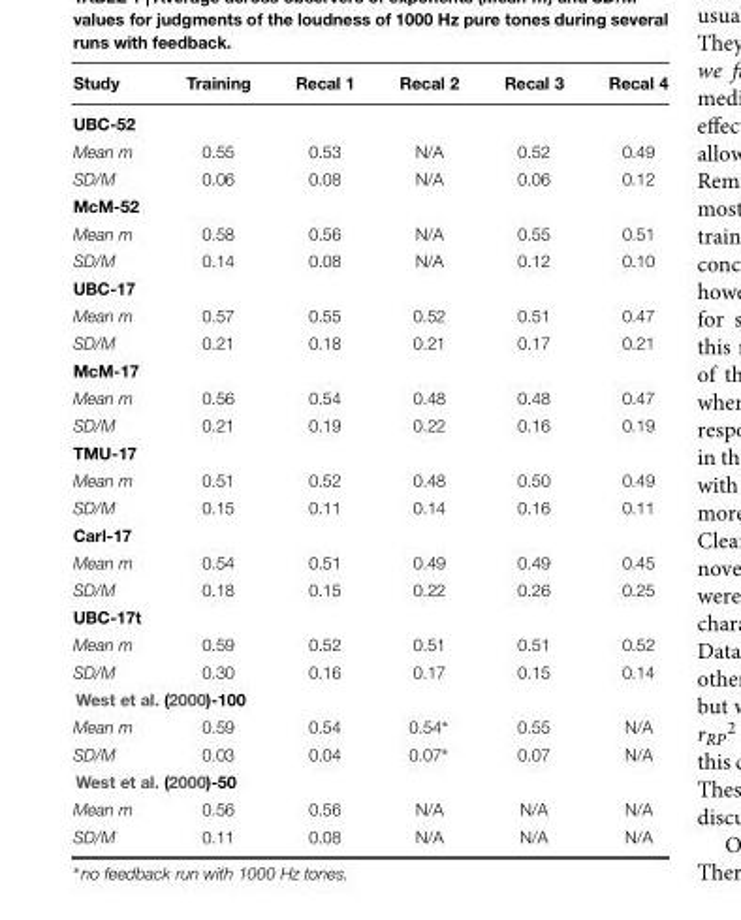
<table><thead><tr><td>Study</td><td>Training</td><td>Recal 1</td><td>Recal 2</td><td>Recal 3</td><td>Recal 4</td></tr></thead><tbody><tr><td colspan="6">UBC-52</td></tr><tr><td>Mean m</td><td>0.55</td><td>0.53</td><td>N/A</td><td>0.52</td><td>0.49</td></tr><tr><td>SD/M</td><td>0.06</td><td>0.08</td><td>N/A</td><td>0.06</td><td>0.12</td></tr><tr><td colspan="6">McM-52</td></tr><tr><td>Mean m</td><td>0.58</td><td>0.56</td><td>N/A</td><td>0.55</td><td>0.51</td></tr><tr><td>SD/M</td><td>0.14</td><td>0.08</td><td>N/A</td><td>0.12</td><td>0.10</td></tr><tr><td colspan="6">UBC-17</td></tr><tr><td>Mean m</td><td>0.57</td><td>0.55</td><td>0.52</td><td>0.51</td><td>0.47</td></tr><tr><td>SD/M</td><td>0.21</td><td>0.18</td><td>0.21</td><td>0.17</td><td>0.21</td></tr><tr><td colspan="6">McM-17</td></tr><tr><td>Mean m</td><td>0.56</td><td>0.54</td><td>0.48</td><td>0.48</td><td>0.47</td></tr><tr><td>SD/M</td><td>0.21</td><td>0.19</td><td>0.22</td><td>0.16</td><td>0.19</td></tr><tr><td colspan="6">TMU-17</td></tr><tr><td>Mean m</td><td>0.51</td><td>0.52</td><td>0.48</td><td>0.50</td><td>0.49</td></tr><tr><td>SD/M</td><td>0.15</td><td>0.11</td><td>0.14</td><td>0.16</td><td>0.11</td></tr><tr><td colspan="6">Carl-17</td></tr><tr><td>Mean m</td><td>0.54</td><td>0.51</td><td>0.49</td><td>0.49</td><td>0.45</td></tr><tr><td>SD/M</td><td>0.18</td><td>0.15</td><td>0.22</td><td>0.26</td><td>0.25</td></tr><tr><td colspan="6">UBC-17t</td></tr><tr><td>Mean m</td><td>0.59</td><td>0.52</td><td>0.51</td><td>0.51</td><td>0.52</td></tr><tr><td>SD/M</td><td>0.30</td><td>0.16</td><td>0.17</td><td>0.15</td><td>0.14</td></tr><tr><td colspan="6">West et al. (2000)-100</td></tr><tr><td>Mean m</td><td>0.59</td><td>0.54</td><td>0.54∗</td><td>0.55</td><td>N/A</td></tr><tr><td>SD/M</td><td>0.03</td><td>0.04</td><td>0.07∗</td><td>0.07</td><td>N/A</td></tr><tr><td colspan="6">West et al. (2000)-50</td></tr><tr><td>Mean m</td><td>0.56</td><td>0.56</td><td>N/A</td><td>N/A</td><td>N/A</td></tr><tr><td>SD/M</td><td>0.11</td><td>0.08</td><td>N/A</td><td>N/A</td><td>N/A</td></tr></tbody></table>